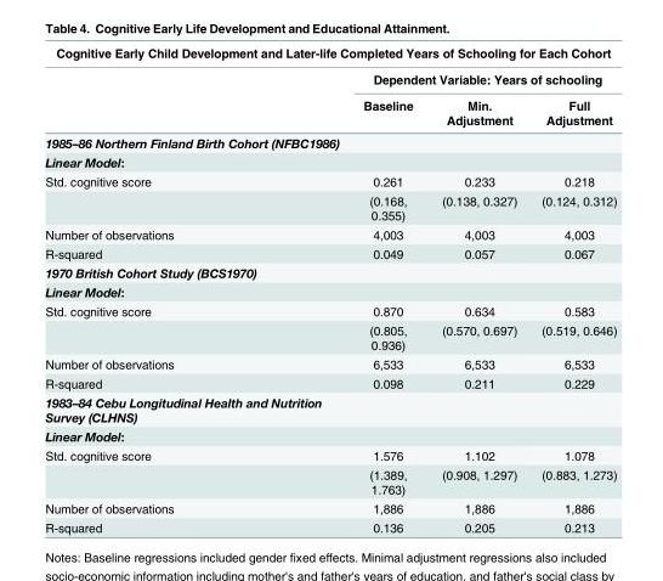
<table><thead><tr><td colspan="4">Cognitive Early Child Development and Later-life Completed Years of Schooling for Each Cohort</td></tr><tr><td rowspan="2"></td><td colspan="3">Dependent Variable: Years of schooling</td></tr><tr><td>Baseline</td><td>Min. Adjustment</td><td>Full Adjustment</td></tr></thead><tbody><tr><td colspan="4">1985–86 Northern Finland Birth Cohort (NFBC1986)</td></tr><tr><td colspan="4">Linear Model:</td></tr><tr><td rowspan="2">Std. cognitive score</td><td>0.261</td><td>0.233</td><td>0.218</td></tr><tr><td>(0.168, 0.355)</td><td>(0.138, 0.327)</td><td>(0.124, 0.312)</td></tr><tr><td>Number of observations</td><td>4,003</td><td>4,003</td><td>4,003</td></tr><tr><td>R-squared</td><td>0.049</td><td>0.057</td><td>0.067</td></tr><tr><td colspan="4">1970 British Cohort Study (BCS1970)</td></tr><tr><td colspan="4">Linear Model:</td></tr><tr><td rowspan="2">Std. cognitive score</td><td>0.870</td><td>0.634</td><td>0.583</td></tr><tr><td>(0.805, 0.936)</td><td>(0.570, 0.697)</td><td>(0.519, 0.646)</td></tr><tr><td>Number of observations</td><td>6,533</td><td>6,533</td><td>6,533</td></tr><tr><td>R-squared</td><td>0.098</td><td>0.211</td><td>0.229</td></tr><tr><td colspan="4">1983–84 Cebu Longitudinal Health and Nutrition Survey (CLHNS)</td></tr><tr><td colspan="4">Linear Model:</td></tr><tr><td rowspan="2">Std. cognitive score</td><td>1.576</td><td>1.102</td><td>1.078</td></tr><tr><td>(1.389, 1.763)</td><td>(0.908, 1.297)</td><td>(0.883, 1.273)</td></tr><tr><td>Number of observations</td><td>1,886</td><td>1,886</td><td>1,886</td></tr><tr><td>R-squared</td><td>0.136</td><td>0.205</td><td>0.213</td></tr></tbody></table>